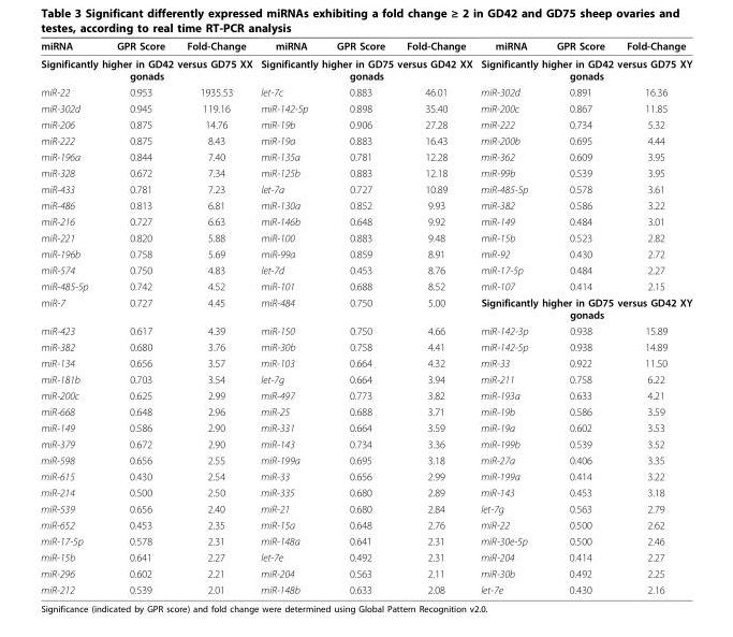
<table><thead><tr><td>miRNA</td><td>GPR Score</td><td>Fold-Change</td><td>miRNA</td><td>GPR Score</td><td>Fold-Change</td><td>miRNA</td><td>GPR Score</td><td>Fold-Change</td></tr></thead><tbody><tr><td colspan="3">Significantly higher in GD42 versus GD75 XX gonads</td><td colspan="3">Significantly higher in GD75 versus GD42 XX gonads</td><td colspan="3">Significantly higher in GD42 versus GD75 XY gonads</td></tr><tr><td>miR-22</td><td>0.953</td><td>1935.53</td><td>let-7c</td><td>0.883</td><td>46.01</td><td>miR-302d</td><td>0.891</td><td>16.36</td></tr><tr><td>miR-302d</td><td>0.945</td><td>119.16</td><td>miR-142-5p</td><td>0.898</td><td>35.40</td><td>miR-200c</td><td>0.867</td><td>11.85</td></tr><tr><td>miR-206</td><td>0.875</td><td>14.76</td><td>miR-19b</td><td>0.906</td><td>27.28</td><td>miR-222</td><td>0.734</td><td>5.32</td></tr><tr><td>miR-222</td><td>0.875</td><td>8.43</td><td>miR-19a</td><td>0.883</td><td>16.43</td><td>miR-200b</td><td>0.695</td><td>4.44</td></tr><tr><td>miR-196a</td><td>0.844</td><td>7.40</td><td>miR-135a</td><td>0.781</td><td>12.28</td><td>miR-362</td><td>0.609</td><td>3.95</td></tr><tr><td>miR-328</td><td>0.672</td><td>7.34</td><td>miR-125b</td><td>0.883</td><td>12.18</td><td>miR-99b</td><td>0.539</td><td>3.95</td></tr><tr><td>miR-433</td><td>0.781</td><td>7.23</td><td>let-7a</td><td>0.727</td><td>10.89</td><td>miR-485-5p</td><td>0.578</td><td>3.61</td></tr><tr><td>miR-486</td><td>0.813</td><td>6.81</td><td>miR-130a</td><td>0.852</td><td>9.93</td><td>miR-382</td><td>0.586</td><td>3.22</td></tr><tr><td>miR-216</td><td>0.727</td><td>6.63</td><td>miR-146b</td><td>0.648</td><td>9.92</td><td>miR-149</td><td>0.484</td><td>3.01</td></tr><tr><td>miR-221</td><td>0.820</td><td>5.88</td><td>miR-100</td><td>0.883</td><td>9.48</td><td>miR-15b</td><td>0.523</td><td>2.82</td></tr><tr><td>miR-196b</td><td>0.758</td><td>5.69</td><td>miR-99a</td><td>0.859</td><td>8.91</td><td>miR-92</td><td>0.430</td><td>2.72</td></tr><tr><td>miR-574</td><td>0.750</td><td>4.83</td><td>let-7d</td><td>0.453</td><td>8.76</td><td>miR-17-5p</td><td>0.484</td><td>2.27</td></tr><tr><td>miR-485-5p</td><td>0.742</td><td>4.52</td><td>miR-101</td><td>0.688</td><td>8.52</td><td>miR-107</td><td>0.414</td><td>2.15</td></tr><tr><td>miR-7</td><td>0.727</td><td>4.45</td><td>miR-484</td><td>0.750</td><td>5.00</td><td colspan="3">Significantly higher in GD75 versus GD42 XY gonads</td></tr><tr><td>miR-423</td><td>0.617</td><td>4.39</td><td>miR-150</td><td>0.750</td><td>4.66</td><td>miR-142-3p</td><td>0.938</td><td>15.89</td></tr><tr><td>miR-382</td><td>0.680</td><td>3.76</td><td>miR-30b</td><td>0.758</td><td>4.41</td><td>miR-142-5p</td><td>0.938</td><td>14.89</td></tr><tr><td>miR-134</td><td>0.656</td><td>3.57</td><td>miR-103</td><td>0.664</td><td>4.32</td><td>miR-33</td><td>0.922</td><td>11.50</td></tr><tr><td>miR-181b</td><td>0.703</td><td>3.54</td><td>let-7g</td><td>0.664</td><td>3.94</td><td>miR-211</td><td>0.758</td><td>6.22</td></tr><tr><td>miR-200c</td><td>0.625</td><td>2.99</td><td>miR-497</td><td>0.773</td><td>3.82</td><td>miR-193a</td><td>0.633</td><td>4.21</td></tr><tr><td>miR-668</td><td>0.648</td><td>2.96</td><td>miR-25</td><td>0.688</td><td>3.71</td><td>miR-19b</td><td>0.586</td><td>3.59</td></tr><tr><td>miR-149</td><td>0.586</td><td>2.90</td><td>miR-331</td><td>0.664</td><td>3.59</td><td>miR-19a</td><td>0.602</td><td>3.53</td></tr><tr><td>miR-379</td><td>0.672</td><td>2.90</td><td>miR-143</td><td>0.734</td><td>3.36</td><td>miR-199b</td><td>0.539</td><td>3.52</td></tr><tr><td>miR-598</td><td>0.656</td><td>2.55</td><td>miR-199a</td><td>0.695</td><td>3.18</td><td>miR-27a</td><td>0.406</td><td>3.35</td></tr><tr><td>miR-615</td><td>0.430</td><td>2.54</td><td>miR-33</td><td>0.656</td><td>2.99</td><td>miR-199a</td><td>0.414</td><td>3.22</td></tr><tr><td>miR-214</td><td>0.500</td><td>2.50</td><td>miR-335</td><td>0.680</td><td>2.89</td><td>miR-143</td><td>0.453</td><td>3.18</td></tr><tr><td>miR-539</td><td>0.656</td><td>2.40</td><td>miR-21</td><td>0.680</td><td>2.84</td><td>let-7g</td><td>0.563</td><td>2.79</td></tr><tr><td>miR-652</td><td>0.453</td><td>2.35</td><td>miR-15a</td><td>0.648</td><td>2.76</td><td>miR-22</td><td>0.500</td><td>2.62</td></tr><tr><td>miR-17-5p</td><td>0.578</td><td>2.31</td><td>miR-148a</td><td>0.641</td><td>2.31</td><td>miR-30e-5p</td><td>0.500</td><td>2.46</td></tr><tr><td>miR-15b</td><td>0.641</td><td>2.27</td><td>let-7e</td><td>0.492</td><td>2.31</td><td>miR-204</td><td>0.414</td><td>2.27</td></tr><tr><td>miR-296</td><td>0.602</td><td>2.21</td><td>miR-204</td><td>0.563</td><td>2.11</td><td>miR-30b</td><td>0.492</td><td>2.25</td></tr><tr><td>miR-212</td><td>0.539</td><td>2.01</td><td>miR-148b</td><td>0.633</td><td>2.08</td><td>let-7e</td><td>0.430</td><td>2.16</td></tr></tbody></table>